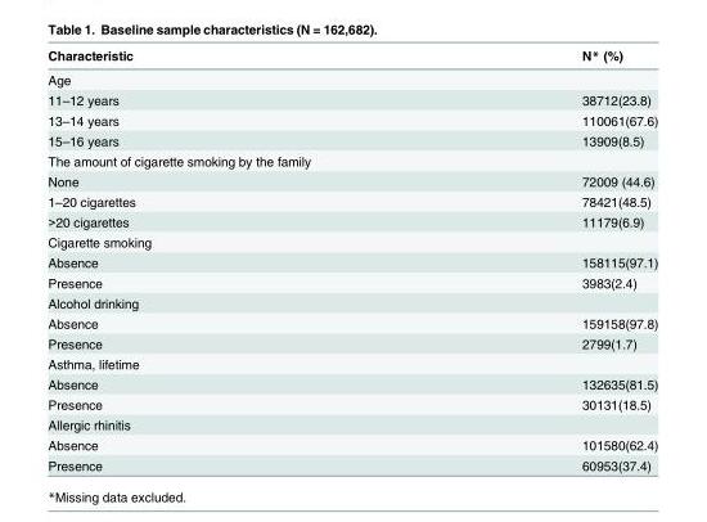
<table><thead><tr><td>Characteristic</td><td>N* (%)</td></tr></thead><tbody><tr><td colspan="2">Age</td></tr><tr><td>11–12 years</td><td>38712(23.8)</td></tr><tr><td>13–14 years</td><td>110061(67.6)</td></tr><tr><td>15–16 years</td><td>13909(8.5)</td></tr><tr><td colspan="2">The amount of cigarette smoking by the family</td></tr><tr><td>None</td><td>72009 (44.6)</td></tr><tr><td>1–20 cigarettes</td><td>78421(48.5)</td></tr><tr><td>&gt;20 cigarettes</td><td>11179(6.9)</td></tr><tr><td colspan="2">Cigarette smoking</td></tr><tr><td>Absence</td><td>158115(97.1)</td></tr><tr><td>Presence</td><td>3983(2.4)</td></tr><tr><td colspan="2">Alcohol drinking</td></tr><tr><td>Absence</td><td>159158(97.8)</td></tr><tr><td>Presence</td><td>2799(1.7)</td></tr><tr><td colspan="2">Asthma, lifetime</td></tr><tr><td>Absence</td><td>132635(81.5)</td></tr><tr><td>Presence</td><td>30131(18.5)</td></tr><tr><td colspan="2">Allergic rhinitis</td></tr><tr><td>Absence</td><td>101580(62.4)</td></tr><tr><td>Presence</td><td>60953(37.4)</td></tr></tbody></table>